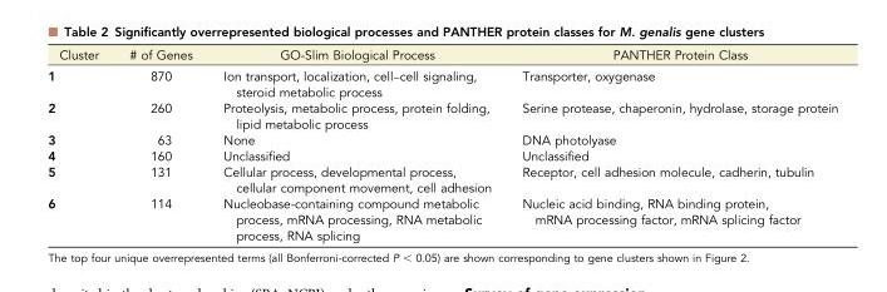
<table><thead><tr><td>Cluster</td><td># of Genes</td><td>GO-Slim Biological Process</td><td>PANTHER Protein Class</td></tr></thead><tbody><tr><td>1</td><td>870</td><td>Ion transport, localization, cell–cell signaling, steroid metabolic process</td><td>Transporter, oxygenase</td></tr><tr><td>2</td><td>260</td><td>Proteolysis, metabolic process, protein folding, lipid metabolic process</td><td>Serine protease, chaperonin, hydrolase, storage protein</td></tr><tr><td>3</td><td>63</td><td>None</td><td>DNA photolyase</td></tr><tr><td>4</td><td>160</td><td>Unclassified</td><td>Unclassified</td></tr><tr><td>5</td><td>131</td><td>Cellular process, developmental process, cellular component movement, cell adhesion</td><td>Receptor, cell adhesion molecule, cadherin, tubulin</td></tr><tr><td>6</td><td>114</td><td>Nucleobase-containing compound metabolic process, mRNA processing, RNA metabolic process, RNA splicing</td><td>Nucleic acid binding, RNA binding protein, mRNA processing factor, mRNA splicing factor</td></tr></tbody></table>